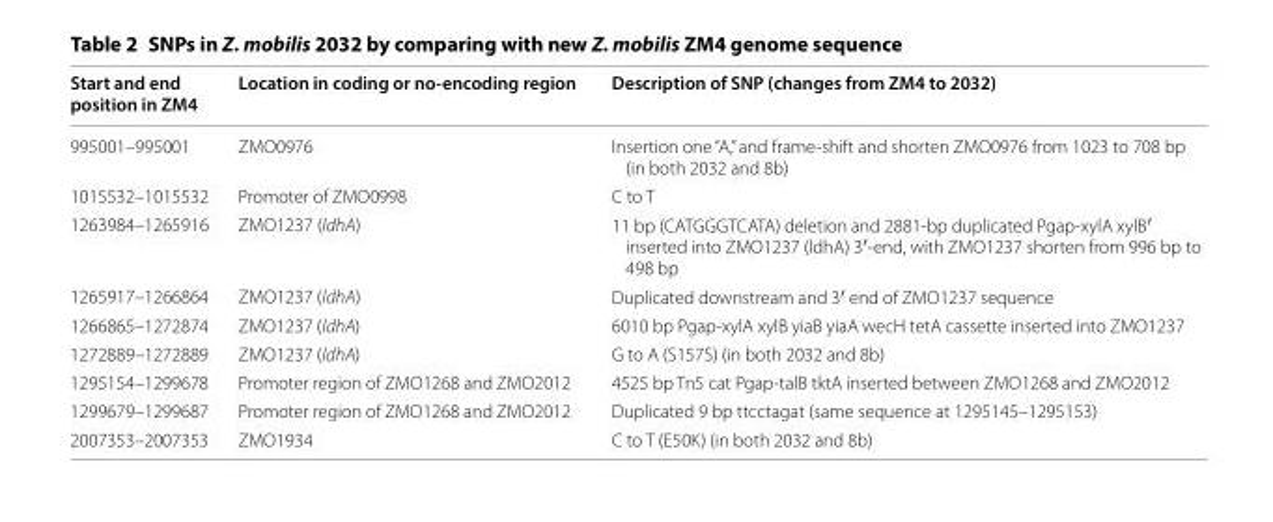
<table><thead><tr><td>Start and end position in ZM4</td><td>Location in coding or no‑encoding region</td><td>Description of SNP (changes from ZM4 to 2032)</td></tr></thead><tbody><tr><td>995001–995001</td><td>ZMO0976</td><td>Insertion one “A,” and frame-shift and shorten ZMO0976 from 1023 to 708 bp (in both 2032 and 8b)</td></tr><tr><td>1015532–1015532</td><td>Promoter of ZMO0998</td><td>C to T</td></tr><tr><td>1263984–1265916</td><td>ZMO1237 (ldhA)</td><td>11 bp (CAT GGG TCATA) deletion and 2881-bp duplicated Pgap-xylA xylB′ inserted into ZMO1237 (ldhA) 3′-end, with ZMO1237 shorten from 996 bp to 498 bp</td></tr><tr><td>1265917–1266864</td><td>ZMO1237 (ldhA)</td><td>Duplicated downstream and 3′ end of ZMO1237 sequence</td></tr><tr><td>1266865–1272874</td><td>ZMO1237 (ldhA)</td><td>6010 bp Pgap-xylA xylB yiaB yiaA wecH tetA cassette inserted into ZMO1237</td></tr><tr><td>1272889–1272889</td><td>ZMO1237 (ldhA)</td><td>G to A (S157S) (in both 2032 and 8b)</td></tr><tr><td>1295154–1299678</td><td>Promoter region of ZMO1268 and ZMO2012</td><td>4525 bp Tn5 cat Pgap-talB tktA inserted between ZMO1268 and ZMO2012</td></tr><tr><td>1299679–1299687</td><td>Promoter region of ZMO1268 and ZMO2012</td><td>Duplicated 9 bp ttcctagat (same sequence at 1295145–1295153)</td></tr><tr><td>2007353–2007353</td><td>ZMO1934</td><td>C to T (E50K) (in both 2032 and 8b)</td></tr></tbody></table>